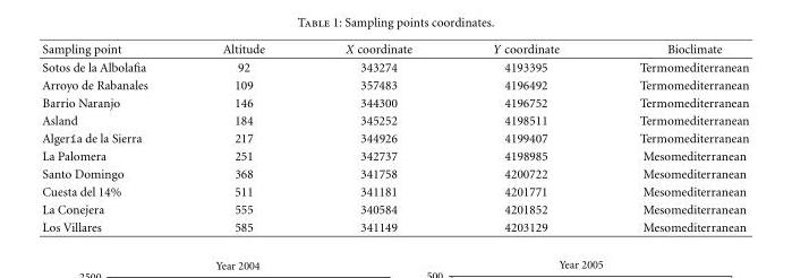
<table><thead><tr><td>Sampling point</td><td>Altitude</td><td>X coordinate</td><td>Y coordinate</td><td>Bioclimate</td></tr></thead><tbody><tr><td>Sotos de la Albolafia</td><td>92</td><td>343274</td><td>4193395</td><td>Termomediterranean</td></tr><tr><td>Arroyo de Rabanales</td><td>109</td><td>357483</td><td>4196492</td><td>Termomediterranean</td></tr><tr><td>Barrio Naranjo</td><td>146</td><td>344300</td><td>4196752</td><td>Termomediterranean</td></tr><tr><td>Asland</td><td>184</td><td>345252</td><td>4198511</td><td>Termomediterranean</td></tr><tr><td>Alger´ıa de la Sierra</td><td>217</td><td>344926</td><td>4199407</td><td>Termomediterranean</td></tr><tr><td>La Palomera</td><td>251</td><td>342737</td><td>4198985</td><td>Mesomediterranean</td></tr><tr><td>Santo Domingo</td><td>368</td><td>341758</td><td>4200722</td><td>Mesomediterranean</td></tr><tr><td>Cuesta del 14%</td><td>511</td><td>341181</td><td>4201771</td><td>Mesomediterranean</td></tr><tr><td>La Conejera</td><td>555</td><td>340584</td><td>4201852</td><td>Mesomediterranean</td></tr><tr><td>Los Villares</td><td>585</td><td>341149</td><td>4203129</td><td>Mesomediterranean</td></tr></tbody></table>